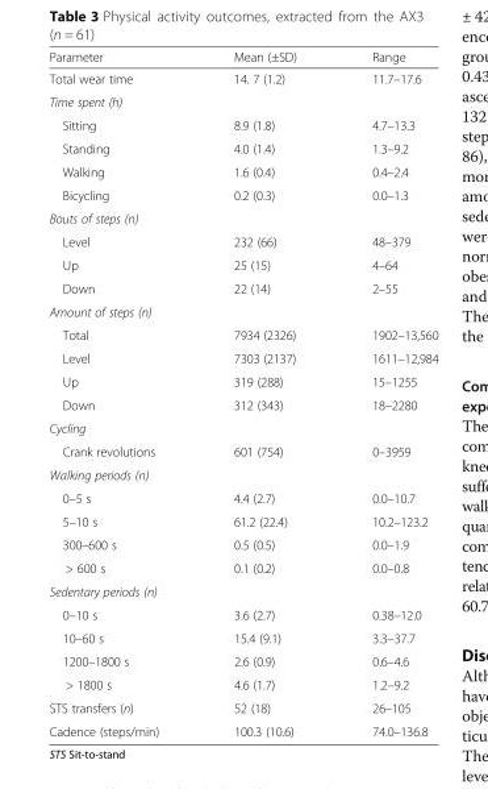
<table><thead><tr><td>Parameter</td><td>Mean (±SD)</td><td>Range</td></tr></thead><tbody><tr><td>Total wear time</td><td>14. 7 (1.2)</td><td>11.7–17.6</td></tr><tr><td colspan="3">Time spent (h)</td></tr><tr><td>Sitting</td><td>8.9 (1.8)</td><td>4.7–13.3</td></tr><tr><td>Standing</td><td>4.0 (1.4)</td><td>1.3–9.2</td></tr><tr><td>Walking</td><td>1.6 (0.4)</td><td>0.4–2.4</td></tr><tr><td>Bicycling</td><td>0.2 (0.3)</td><td>0.0–1.3</td></tr><tr><td colspan="3">Bouts of steps (n)</td></tr><tr><td>Level</td><td>232 (66)</td><td>48–379</td></tr><tr><td>Up</td><td>25 (15)</td><td>4–64</td></tr><tr><td>Down</td><td>22 (14)</td><td>2–55</td></tr><tr><td colspan="3">Amount of steps (n)</td></tr><tr><td>Total</td><td>7934 (2326)</td><td>1902–13,560</td></tr><tr><td>Level</td><td>7303 (2137)</td><td>1611–12,984</td></tr><tr><td>Up</td><td>319 (288)</td><td>15–1255</td></tr><tr><td>Down</td><td>312 (343)</td><td>18–2280</td></tr><tr><td colspan="3">Cycling</td></tr><tr><td>Crank revolutions</td><td>601 (754)</td><td>0–3959</td></tr><tr><td colspan="3">Walking periods (n)</td></tr><tr><td>0–5 s</td><td>4.4 (2.7)</td><td>0.0–10.7</td></tr><tr><td>5–10 s</td><td>61.2 (22.4)</td><td>10.2–123.2</td></tr><tr><td>300–600 s</td><td>0.5 (0.5)</td><td>0.0–1.9</td></tr><tr><td>&gt; 600 s</td><td>0.1 (0.2)</td><td>0.0–0.8</td></tr><tr><td colspan="3">Sedentary periods (n)</td></tr><tr><td>0–10 s</td><td>3.6 (2.7)</td><td>0.38–12.0</td></tr><tr><td>10–60 s</td><td>15.4 (9.1)</td><td>3.3–37.7</td></tr><tr><td>1200–1800 s</td><td>2.6 (0.9)</td><td>0.6–4.6</td></tr><tr><td>&gt; 1800 s</td><td>4.6 (1.7)</td><td>1.2–9.2</td></tr><tr><td>STS transfers (n)</td><td>52 (18)</td><td>26–105</td></tr><tr><td>Cadence (steps/min)</td><td>100.3 (10.6)</td><td>74.0–136.8</td></tr></tbody></table>